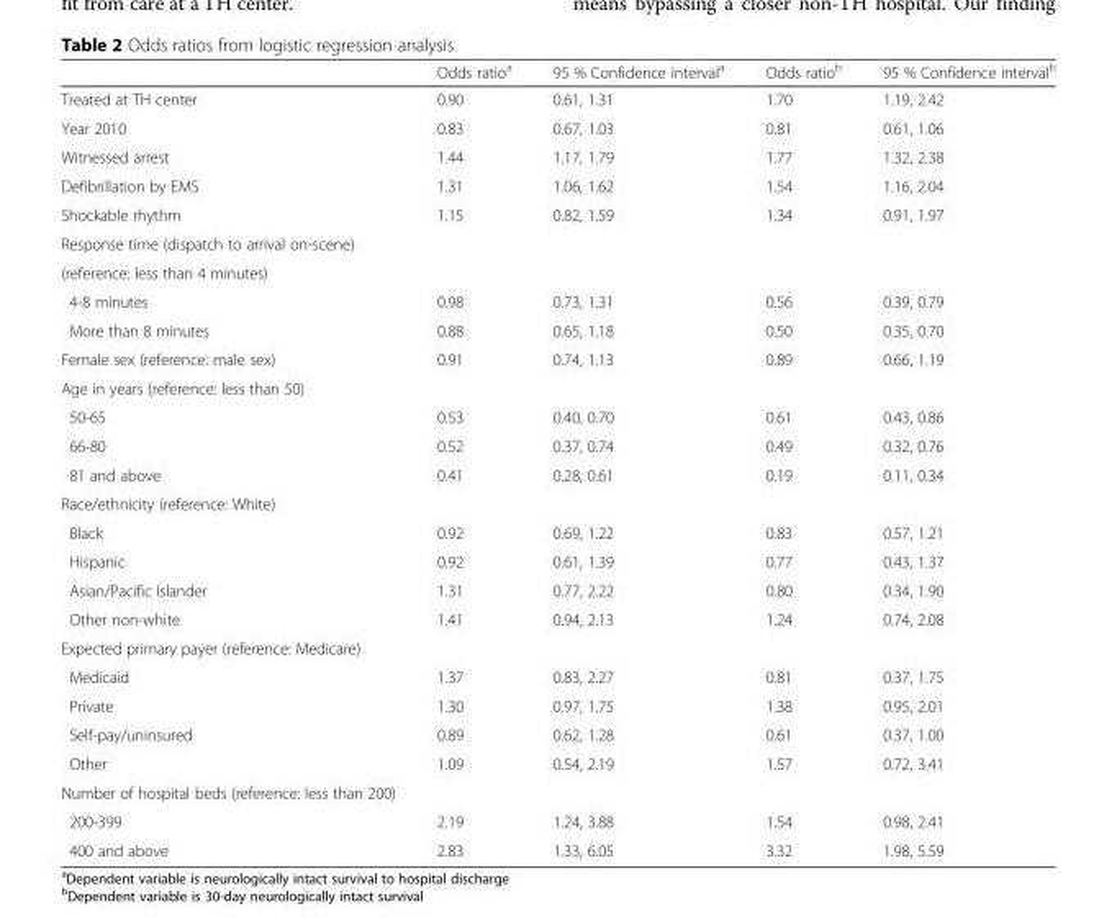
<table><thead><tr><td></td><td>Odds ratio<sup>a</sup></td><td>95 % Confidence interval<sup>a</sup></td><td>Odds ratio<sup>b</sup></td><td>95 % Confidence interval<sup>b</sup></td></tr></thead><tbody><tr><td>Treated at TH center</td><td>0.90</td><td>0.61, 1.31</td><td>1.70</td><td>1.19, 2.42</td></tr><tr><td>Year 2010</td><td>0.83</td><td>0.67, 1.03</td><td>0.81</td><td>0.61, 1.06</td></tr><tr><td>Witnessed arrest</td><td>1.44</td><td>1.17, 1.79</td><td>1.77</td><td>1.32, 2.38</td></tr><tr><td>Defibrillation by EMS</td><td>1.31</td><td>1.06, 1.62</td><td>1.54</td><td>1.16, 2.04</td></tr><tr><td>Shockable rhythm</td><td>1.15</td><td>0.82, 1.59</td><td>1.34</td><td>0.91, 1.97</td></tr><tr><td>Response time (dispatch to arrival on-scene)</td><td rowspan="2"></td><td rowspan="2"></td><td rowspan="2"></td><td rowspan="2"></td></tr><tr><td>(reference: less than 4 minutes)</td></tr><tr><td>4-8 minutes</td><td>0.98</td><td>0.73, 1.31</td><td>0.56</td><td>0.39, 0.79</td></tr><tr><td>More than 8 minutes</td><td>0.88</td><td>0.65, 1.18</td><td>0.50</td><td>0.35, 0.70</td></tr><tr><td>Female sex (reference: male sex)</td><td>0.91</td><td>0.74, 1.13</td><td>0.89</td><td>0.66, 1.19</td></tr><tr><td colspan="5">Age in years (reference: less than 50)</td></tr><tr><td>50-65</td><td>0.53</td><td>0.40, 0.70</td><td>0.61</td><td>0.43, 0.86</td></tr><tr><td>66-80</td><td>0.52</td><td>0.37, 0.74</td><td>0.49</td><td>0.32, 0.76</td></tr><tr><td>81 and above</td><td>0.41</td><td>0.28, 0.61</td><td>0.19</td><td>0.11, 0.34</td></tr><tr><td colspan="5">Race/ethnicity (reference: White)</td></tr><tr><td>Black</td><td>0.92</td><td>0.69, 1.22</td><td>0.83</td><td>0.57, 1.21</td></tr><tr><td>Hispanic</td><td>0.92</td><td>0.61, 1.39</td><td>0.77</td><td>0.43, 1.37</td></tr><tr><td>Asian/Pacific Islander</td><td>1.31</td><td>0.77, 2.22</td><td>0.80</td><td>0.34, 1.90</td></tr><tr><td>Other non-white</td><td>1.41</td><td>0.94, 2.13</td><td>1.24</td><td>0.74, 2.08</td></tr><tr><td colspan="5">Expected primary payer (reference: Medicare)</td></tr><tr><td>Medicaid</td><td>1.37</td><td>0.83, 2.27</td><td>0.81</td><td>0.37, 1.75</td></tr><tr><td>Private</td><td>1.30</td><td>0.97, 1.75</td><td>1.38</td><td>0.95, 2.01</td></tr><tr><td>Self-pay/uninsured</td><td>0.89</td><td>0.62, 1.28</td><td>0.61</td><td>0.37, 1.00</td></tr><tr><td>Other</td><td>1.09</td><td>0.54, 2.19</td><td>1.57</td><td>0.72, 3.41</td></tr><tr><td colspan="5">Number of hospital beds (reference: less than 200)</td></tr><tr><td>200-399</td><td>2.19</td><td>1.24, 3.88</td><td>1.54</td><td>0.98, 2.41</td></tr><tr><td>400 and above</td><td>2.83</td><td>1.33, 6.05</td><td>3.32</td><td>1.98, 5.59</td></tr></tbody></table>